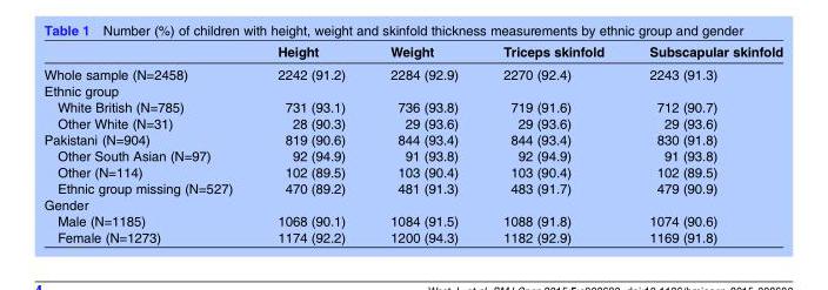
<table><thead><tr><td></td><td>Height</td><td>Weight</td><td>Triceps skinfold</td><td>Subscapular skinfold</td></tr></thead><tbody><tr><td>Whole sample (N=2458)</td><td>2242 (91.2)</td><td>2284 (92.9)</td><td>2270 (92.4)</td><td>2243 (91.3)</td></tr><tr><td colspan="5">Ethnic group</td></tr><tr><td>White British (N=785)</td><td>731 (93.1)</td><td>736 (93.8)</td><td>719 (91.6)</td><td>712 (90.7)</td></tr><tr><td>Other White (N=31)</td><td>28 (90.3)</td><td>29 (93.6)</td><td>29 (93.6)</td><td>29 (93.6)</td></tr><tr><td>Pakistani (N=904)</td><td>819 (90.6)</td><td>844 (93.4)</td><td>844 (93.4)</td><td>830 (91.8)</td></tr><tr><td>Other South Asian (N=97)</td><td>92 (94.9)</td><td>91 (93.8)</td><td>92 (94.9)</td><td>91 (93.8)</td></tr><tr><td>Other (N=114)</td><td>102 (89.5)</td><td>103 (90.4)</td><td>103 (90.4)</td><td>102 (89.5)</td></tr><tr><td>Ethnic group missing (N=527)</td><td>470 (89.2)</td><td>481 (91.3)</td><td>483 (91.7)</td><td>479 (90.9)</td></tr><tr><td colspan="5">Gender</td></tr><tr><td>Male (N=1185)</td><td>1068 (90.1)</td><td>1084 (91.5)</td><td>1088 (91.8)</td><td>1074 (90.6)</td></tr><tr><td>Female (N=1273)</td><td>1174 (92.2)</td><td>1200 (94.3)</td><td>1182 (92.9)</td><td>1169 (91.8)</td></tr></tbody></table>